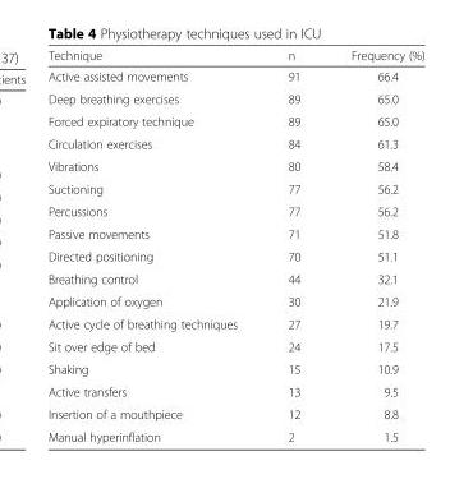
<table><thead><tr><td>Technique</td><td>n</td><td>Frequency (%)</td></tr></thead><tbody><tr><td>Active assisted movements</td><td>91</td><td>66.4</td></tr><tr><td>Deep breathing exercises</td><td>89</td><td>65.0</td></tr><tr><td>Forced expiratory technique</td><td>89</td><td>65.0</td></tr><tr><td>Circulation exercises</td><td>84</td><td>61.3</td></tr><tr><td>Vibrations</td><td>80</td><td>58.4</td></tr><tr><td>Suctioning</td><td>77</td><td>56.2</td></tr><tr><td>Percussions</td><td>77</td><td>56.2</td></tr><tr><td>Passive movements</td><td>71</td><td>51.8</td></tr><tr><td>Directed positioning</td><td>70</td><td>51.1</td></tr><tr><td>Breathing control</td><td>44</td><td>32.1</td></tr><tr><td>Application of oxygen</td><td>30</td><td>21.9</td></tr><tr><td>Active cycle of breathing techniques</td><td>27</td><td>19.7</td></tr><tr><td>Sit over edge of bed</td><td>24</td><td>17.5</td></tr><tr><td>Shaking</td><td>15</td><td>10.9</td></tr><tr><td>Active transfers</td><td>13</td><td>9.5</td></tr><tr><td>Insertion of a mouthpiece</td><td>12</td><td>8.8</td></tr><tr><td>Manual hyperinflation</td><td>2</td><td>1.5</td></tr></tbody></table>